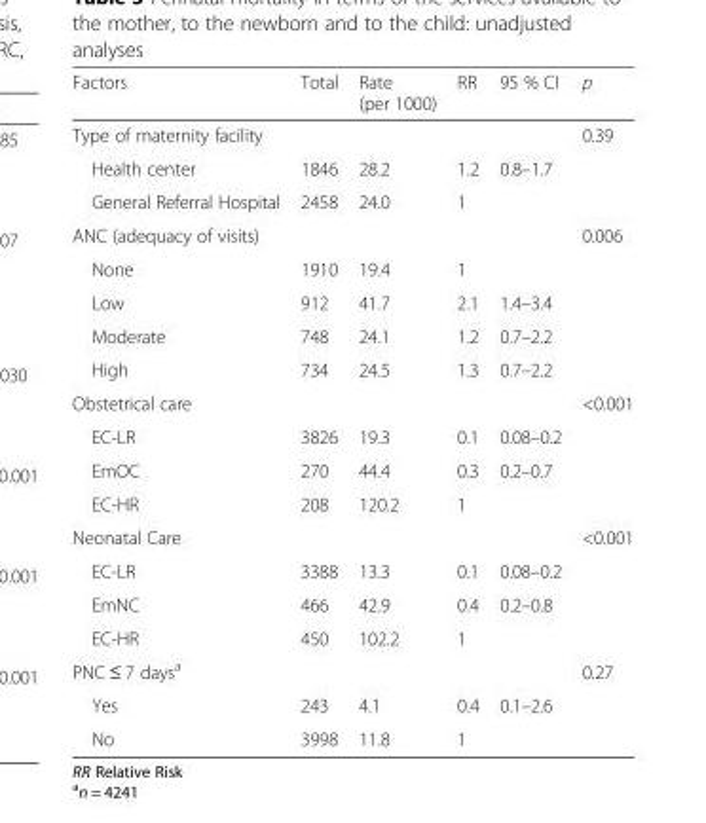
<table><thead><tr><td>Factors</td><td>Total</td><td>Rate (per 1000)</td><td>RR</td><td>95 % CI</td><td>p</td></tr></thead><tbody><tr><td>Type of maternity facility</td><td></td><td></td><td></td><td></td><td>0.39</td></tr><tr><td>Health center</td><td>1846</td><td>28.2</td><td>1.2</td><td>0.8–1.7</td><td></td></tr><tr><td>General Referral Hospital</td><td>2458</td><td>24.0</td><td>1</td><td></td><td></td></tr><tr><td>ANC (adequacy of visits)</td><td></td><td></td><td></td><td></td><td>0.006</td></tr><tr><td>None</td><td>1910</td><td>19.4</td><td>1</td><td></td><td></td></tr><tr><td>Low</td><td>912</td><td>41.7</td><td>2.1</td><td>1.4–3.4</td><td></td></tr><tr><td>Moderate</td><td>748</td><td>24.1</td><td>1.2</td><td>0.7–2.2</td><td></td></tr><tr><td>High</td><td>734</td><td>24.5</td><td>1.3</td><td>0.7–2.2</td><td></td></tr><tr><td>Obstetrical care</td><td></td><td></td><td></td><td></td><td>&lt;0.001</td></tr><tr><td>EC-LR</td><td>3826</td><td>19.3</td><td>0.1</td><td>0.08–0.2</td><td></td></tr><tr><td>EmOC</td><td>270</td><td>44.4</td><td>0.3</td><td>0.2–0.7</td><td></td></tr><tr><td>EC-HR</td><td>208</td><td>120.2</td><td>1</td><td></td><td></td></tr><tr><td>Neonatal Care</td><td></td><td></td><td></td><td></td><td>&lt;0.001</td></tr><tr><td>EC-LR</td><td>3388</td><td>13.3</td><td>0.1</td><td>0.08–0.2</td><td></td></tr><tr><td>EmNC</td><td>466</td><td>42.9</td><td>0.4</td><td>0.2–0.8</td><td></td></tr><tr><td>EC-HR</td><td>450</td><td>102.2</td><td>1</td><td></td><td></td></tr><tr><td>PNC ≤ 7 days<sup>a</sup></td><td></td><td></td><td></td><td></td><td>0.27</td></tr><tr><td>Yes</td><td>243</td><td>4.1</td><td>0.4</td><td>0.1–2.6</td><td></td></tr><tr><td>No</td><td>3998</td><td>11.8</td><td>1</td><td></td><td></td></tr></tbody></table>